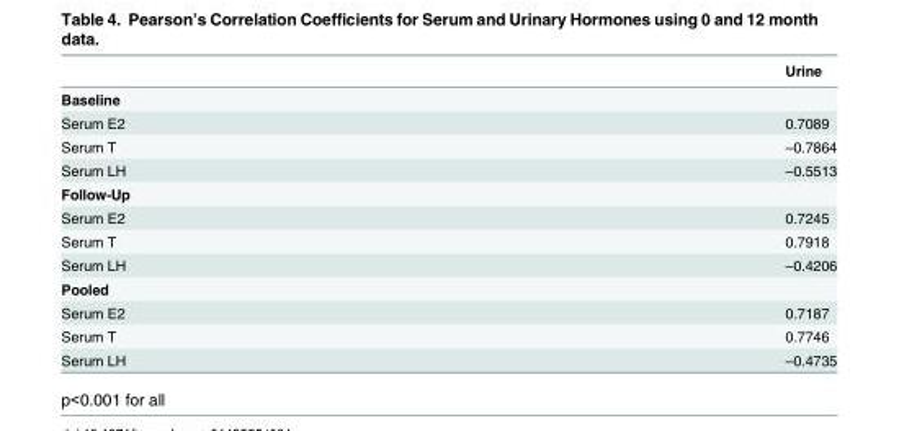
<table><thead><tr><td></td><td>Urine</td></tr></thead><tbody><tr><td colspan="2">Baseline</td></tr><tr><td>Serum E2</td><td>0.7089</td></tr><tr><td>Serum T</td><td>–0.7864</td></tr><tr><td>Serum LH</td><td>–0.5513</td></tr><tr><td colspan="2">Follow-Up</td></tr><tr><td>Serum E2</td><td>0.7245</td></tr><tr><td>Serum T</td><td>0.7918</td></tr><tr><td>Serum LH</td><td>–0.4206</td></tr><tr><td colspan="2">Pooled</td></tr><tr><td>Serum E2</td><td>0.7187</td></tr><tr><td>Serum T</td><td>0.7746</td></tr><tr><td>Serum LH</td><td>–0.4735</td></tr></tbody></table>